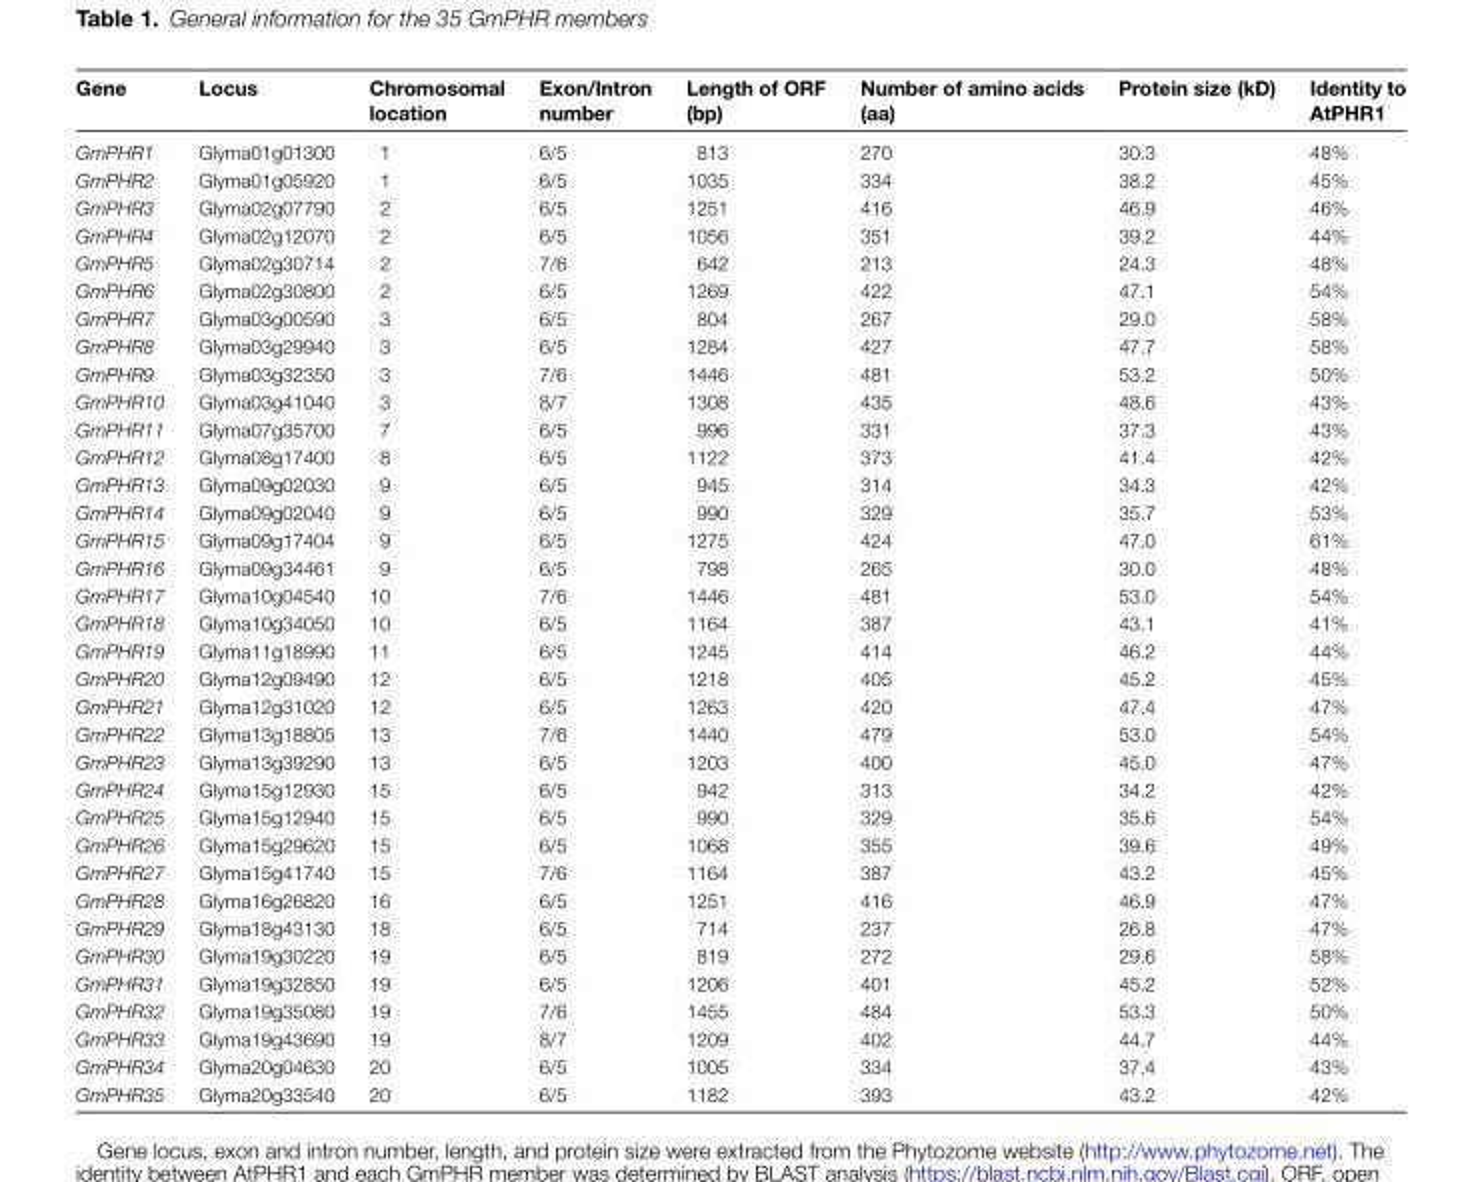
<table><thead><tr><td>Gene</td><td>Locus</td><td>Chromosomal location</td><td>Exon/Intron number</td><td>Length of ORF (bp)</td><td>Number of amino acids (aa)</td><td>Protein size (kD)</td><td>Identity to AtPHR1</td></tr></thead><tbody><tr><td>GmPHR1</td><td>Glyma01g01300</td><td>1</td><td>6/5</td><td>813</td><td>270</td><td>30.3</td><td>48%</td></tr><tr><td>GmPHR2</td><td>Glyma01g05920</td><td>1</td><td>6/5</td><td>1035</td><td>334</td><td>38.2</td><td>45%</td></tr><tr><td>GmPHR3</td><td>Glyma02g07790</td><td>2</td><td>6/5</td><td>1251</td><td>416</td><td>46.9</td><td>46%</td></tr><tr><td>GmPHR4</td><td>Glyma02g12070</td><td>2</td><td>6/5</td><td>1056</td><td>351</td><td>39.2</td><td>44%</td></tr><tr><td>GmPHR5</td><td>Glyma02g30714</td><td>2</td><td>7/6</td><td>642</td><td>213</td><td>24.3</td><td>48%</td></tr><tr><td>GmPHR6</td><td>Glyma02g30800</td><td>2</td><td>6/5</td><td>1269</td><td>422</td><td>47.1</td><td>54%</td></tr><tr><td>GmPHR7</td><td>Glyma03g00590</td><td>3</td><td>6/5</td><td>804</td><td>267</td><td>29.0</td><td>58%</td></tr><tr><td>GmPHR8</td><td>Glyma03g29940</td><td>3</td><td>6/5</td><td>1284</td><td>427</td><td>47.7</td><td>58%</td></tr><tr><td>GmPHR9</td><td>Glyma03g32350</td><td>3</td><td>7/6</td><td>1446</td><td>481</td><td>53.2</td><td>50%</td></tr><tr><td>GmPHR10</td><td>Glyma03g41040</td><td>3</td><td>8/7</td><td>1308</td><td>435</td><td>48.6</td><td>43%</td></tr><tr><td>GmPHR11</td><td>Glyma07g35700</td><td>7</td><td>6/5</td><td>996</td><td>331</td><td>37.3</td><td>43%</td></tr><tr><td>GmPHR12</td><td>Glyma08g17400</td><td>8</td><td>6/5</td><td>1122</td><td>373</td><td>41.4</td><td>42%</td></tr><tr><td>GmPHR13</td><td>Glyma09g02030</td><td>9</td><td>6/5</td><td>945</td><td>314</td><td>34.3</td><td>42%</td></tr><tr><td>GmPHR14</td><td>Glyma09g02040</td><td>9</td><td>6/5</td><td>990</td><td>329</td><td>35.7</td><td>53%</td></tr><tr><td>GmPHR15</td><td>Glyma09g17404</td><td>9</td><td>6/5</td><td>1275</td><td>424</td><td>47.0</td><td>61%</td></tr><tr><td>GmPHR16</td><td>Glyma09g34461</td><td>9</td><td>6/5</td><td>798</td><td>265</td><td>30.0</td><td>48%</td></tr><tr><td>GmPHR17</td><td>Glyma10g04540</td><td>10</td><td>7/6</td><td>1446</td><td>481</td><td>53.0</td><td>54%</td></tr><tr><td>GmPHR18</td><td>Glyma10g34050</td><td>10</td><td>6/5</td><td>1164</td><td>387</td><td>43.1</td><td>41%</td></tr><tr><td>GmPHR19</td><td>Glyma11g18990</td><td>11</td><td>6/5</td><td>1245</td><td>414</td><td>46.2</td><td>44%</td></tr><tr><td>GmPHR20</td><td>Glyma12g09490</td><td>12</td><td>6/5</td><td>1218</td><td>405</td><td>45.2</td><td>45%</td></tr><tr><td>GmPHR21</td><td>Glyma12g31020</td><td>12</td><td>6/5</td><td>1263</td><td>420</td><td>47.4</td><td>47%</td></tr><tr><td>GmPHR22</td><td>Glyma13g18805</td><td>13</td><td>7/6</td><td>1440</td><td>479</td><td>53.0</td><td>54%</td></tr><tr><td>GmPHR23</td><td>Glyma13g39290</td><td>13</td><td>6/5</td><td>1203</td><td>400</td><td>45.0</td><td>47%</td></tr><tr><td>GmPHR24</td><td>Glyma15g12930</td><td>15</td><td>6/5</td><td>942</td><td>313</td><td>34.2</td><td>42%</td></tr><tr><td>GmPHR25</td><td>Glyma15g12940</td><td>15</td><td>6/5</td><td>990</td><td>329</td><td>35.6</td><td>54%</td></tr><tr><td>GmPHR26</td><td>Glyma15g29620</td><td>15</td><td>6/5</td><td>1068</td><td>355</td><td>39.6</td><td>49%</td></tr><tr><td>GmPHR27</td><td>Glyma15g41740</td><td>15</td><td>7/6</td><td>1164</td><td>387</td><td>43.2</td><td>45%</td></tr><tr><td>GmPHR28</td><td>Glyma16g26820</td><td>16</td><td>6/5</td><td>1251</td><td>416</td><td>46.9</td><td>47%</td></tr><tr><td>GmPHR29</td><td>Glyma18g43130</td><td>18</td><td>6/5</td><td>714</td><td>237</td><td>26.8</td><td>47%</td></tr><tr><td>GmPHR30</td><td>Glyma19g30220</td><td>19</td><td>6/5</td><td>819</td><td>272</td><td>29.6</td><td>58%</td></tr><tr><td>GmPHR31</td><td>Glyma19g32850</td><td>19</td><td>6/5</td><td>1206</td><td>401</td><td>45.2</td><td>52%</td></tr><tr><td>GmPHR32</td><td>Glyma19g35080</td><td>19</td><td>7/6</td><td>1455</td><td>484</td><td>53.3</td><td>50%</td></tr><tr><td>GmPHR33</td><td>Glyma19g43690</td><td>19</td><td>8/7</td><td>1209</td><td>402</td><td>44.7</td><td>44%</td></tr><tr><td>GmPHR34</td><td>Glyma20g04630</td><td>20</td><td>6/5</td><td>1005</td><td>334</td><td>37.4</td><td>43%</td></tr><tr><td>GmPHR35</td><td>Glyma20g33540</td><td>20</td><td>6/5</td><td>1182</td><td>393</td><td>43.2</td><td>42%</td></tr></tbody></table>